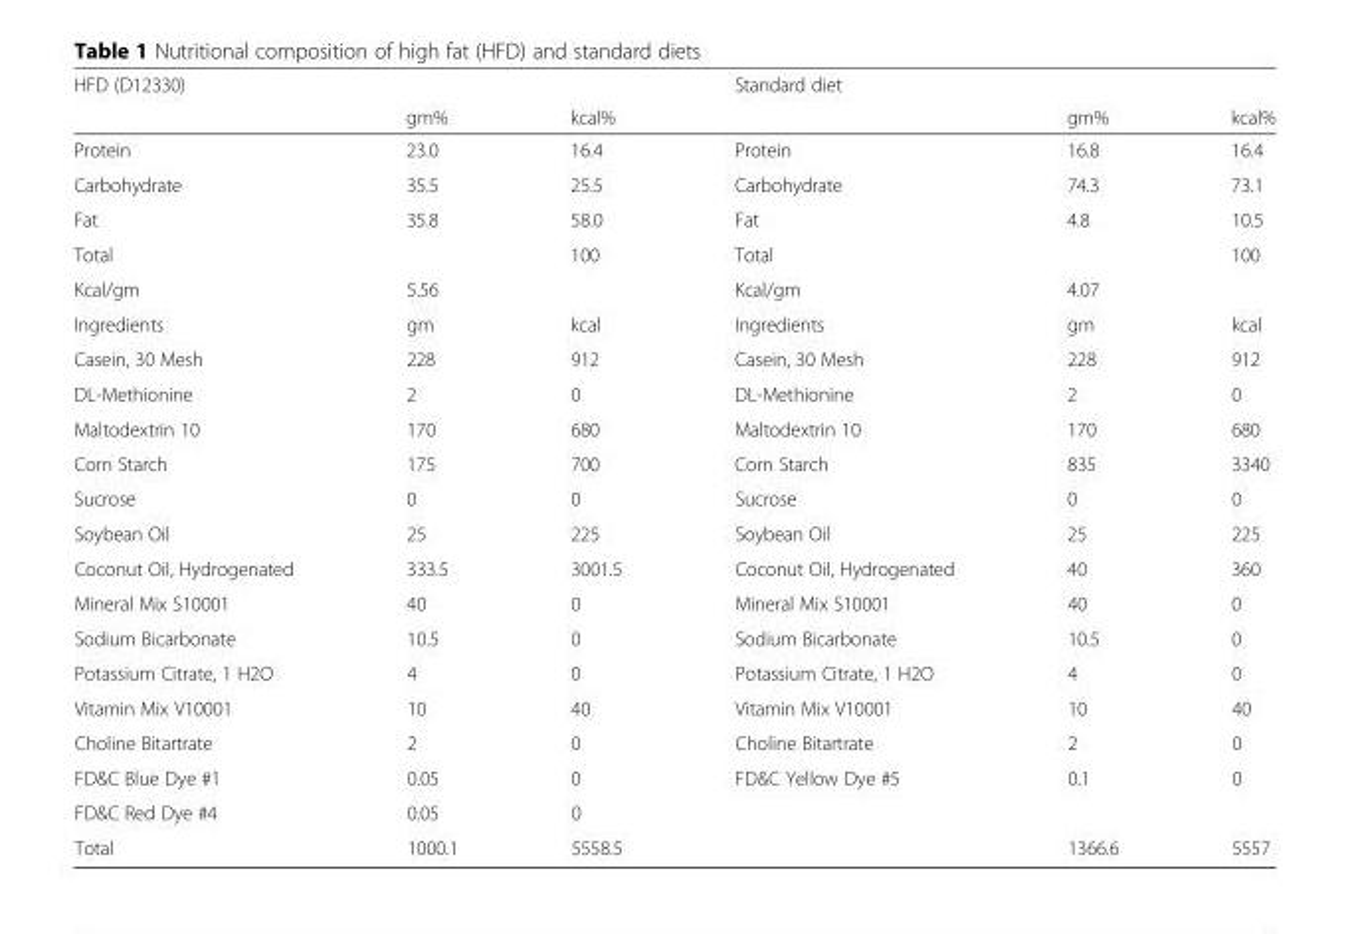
<table><thead><tr><td rowspan="2">HFD (D12330)</td><td rowspan="2">gm%</td><td rowspan="2">kcal%</td><td rowspan="2">Standard diet</td><td rowspan="2">gm%</td><td rowspan="2">kcal%</td></tr><tr></tr></thead><tbody><tr><td>Protein</td><td>23.0</td><td>16.4</td><td>Protein</td><td>16.8</td><td>16.4</td></tr><tr><td>Carbohydrate</td><td>35.5</td><td>25.5</td><td>Carbohydrate</td><td>74.3</td><td>73.1</td></tr><tr><td>Fat</td><td>35.8</td><td>58.0</td><td>Fat</td><td>4.8</td><td>10.5</td></tr><tr><td>Total</td><td></td><td>100</td><td>Total</td><td></td><td>100</td></tr><tr><td>Kcal/gm</td><td>5.56</td><td></td><td>Kcal/gm</td><td>4.07</td><td></td></tr><tr><td>Ingredients</td><td>gm</td><td>kcal</td><td>Ingredients</td><td>gm</td><td>kcal</td></tr><tr><td>Casein, 30 Mesh</td><td>228</td><td>912</td><td>Casein, 30 Mesh</td><td>228</td><td>912</td></tr><tr><td>DL-Methionine</td><td>2</td><td>0</td><td>DL-Methionine</td><td>2</td><td>0</td></tr><tr><td>Maltodextrin 10</td><td>170</td><td>680</td><td>Maltodextrin 10</td><td>170</td><td>680</td></tr><tr><td>Corn Starch</td><td>175</td><td>700</td><td>Corn Starch</td><td>835</td><td>3340</td></tr><tr><td>Sucrose</td><td>0</td><td>0</td><td>Sucrose</td><td>0</td><td>0</td></tr><tr><td>Soybean Oil</td><td>25</td><td>225</td><td>Soybean Oil</td><td>25</td><td>225</td></tr><tr><td>Coconut Oil, Hydrogenated</td><td>333.5</td><td>3001.5</td><td>Coconut Oil, Hydrogenated</td><td>40</td><td>360</td></tr><tr><td>Mineral Mix S10001</td><td>40</td><td>0</td><td>Mineral Mix S10001</td><td>40</td><td>0</td></tr><tr><td>Sodium Bicarbonate</td><td>10.5</td><td>0</td><td>Sodium Bicarbonate</td><td>10.5</td><td>0</td></tr><tr><td>Potassium Citrate, 1 H2O</td><td>4</td><td>0</td><td>Potassium Citrate, 1 H2O</td><td>4</td><td>0</td></tr><tr><td>Vitamin Mix V10001</td><td>10</td><td>40</td><td>Vitamin Mix V10001</td><td>10</td><td>40</td></tr><tr><td>Choline Bitartrate</td><td>2</td><td>0</td><td>Choline Bitartrate</td><td>2</td><td>0</td></tr><tr><td>FD&amp;C Blue Dye #1</td><td>0.05</td><td>0</td><td>FD&amp;C Yellow Dye #5</td><td>0.1</td><td>0</td></tr><tr><td>FD&amp;C Red Dye #4</td><td>0.05</td><td>0</td><td></td><td></td><td></td></tr><tr><td>Total</td><td>1000.1</td><td>5558.5</td><td></td><td>1366.6</td><td>5557</td></tr></tbody></table>